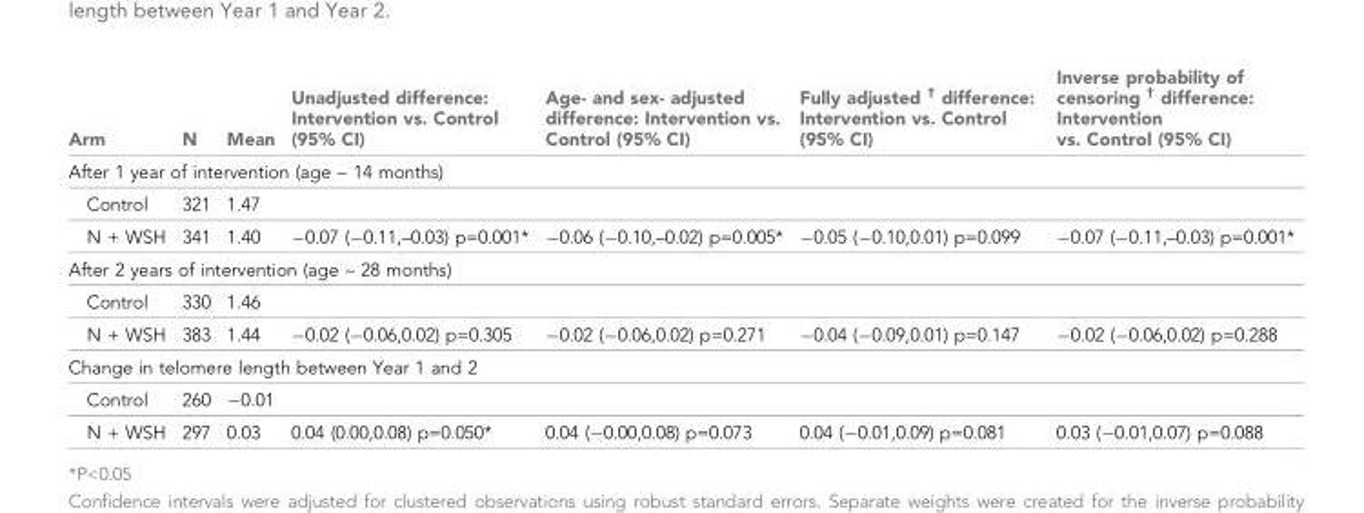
<table><thead><tr><td>Arm</td><td>N</td><td>Mean</td><td>Unadjusted difference: Intervention vs. Control (95% CI)</td><td>Age- and sex- adjusted difference: Intervention vs. Control (95% CI)</td><td>Fully adjusted <sup>†</sup> difference: Intervention vs. Control (95% CI)</td><td>Inverse probability of censoring <sup>†</sup> difference: Intervention vs. Control (95% CI)</td></tr></thead><tbody><tr><td colspan="7">After 1 year of intervention (age ~ 14 months)</td></tr><tr><td>Control</td><td>321</td><td>1.47</td><td></td><td></td><td></td><td></td></tr><tr><td>N + WSH</td><td>341</td><td>1.40</td><td>−0.07 (−0.11,–0.03) p=0.001*</td><td>−0.06 (−0.10,–0.02) p=0.005*</td><td>−0.05 (−0.10,0.01) p=0.099</td><td>−0.07 (−0.11,–0.03) p=0.001*</td></tr><tr><td colspan="7">After 2 years of intervention (age ~ 28 months)</td></tr><tr><td>Control</td><td>330</td><td>1.46</td><td></td><td></td><td></td><td></td></tr><tr><td>N + WSH</td><td>383</td><td>1.44</td><td>−0.02 (−0.06,0.02) p=0.305</td><td>−0.02 (−0.06,0.02) p=0.271</td><td>−0.04 (−0.09,0.01) p=0.147</td><td>−0.02 (−0.06,0.02) p=0.288</td></tr><tr><td colspan="7">Change in telomere length between Year 1 and 2</td></tr><tr><td>Control</td><td>260</td><td>−0.01</td><td></td><td></td><td></td><td></td></tr><tr><td>N + WSH</td><td>297</td><td>0.03</td><td>0.04 (0.00,0.08) p=0.050*</td><td>0.04 (−0.00,0.08) p=0.073</td><td>0.04 (−0.01,0.09) p=0.081</td><td>0.03 (−0.01,0.07) p=0.088</td></tr></tbody></table>